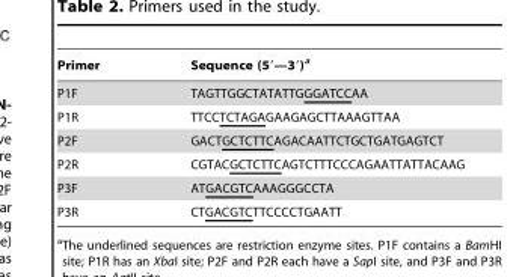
<table><thead><tr><td>Primer</td><td>Sequence (5′—3′)<sup>a</sup></td></tr></thead><tbody><tr><td>P1F</td><td>TAGTTGGCTATATTGGGATCCAA</td></tr><tr><td>P1R</td><td>TTCCTCTAGAGAAGAGCTTAAAGTTAA</td></tr><tr><td>P2F</td><td>GACTGCTCTTCAGACAATTCTGCTGATGAGTCT</td></tr><tr><td>P2R</td><td>CGTACGCTCTTCAGTCTTTCCCAGAATTATTACAAG</td></tr><tr><td>P3F</td><td>ATGACGTCAAAGGGCCTA</td></tr><tr><td>P3R</td><td>CTGACGTCTTCCCCTGAATT</td></tr></tbody></table>